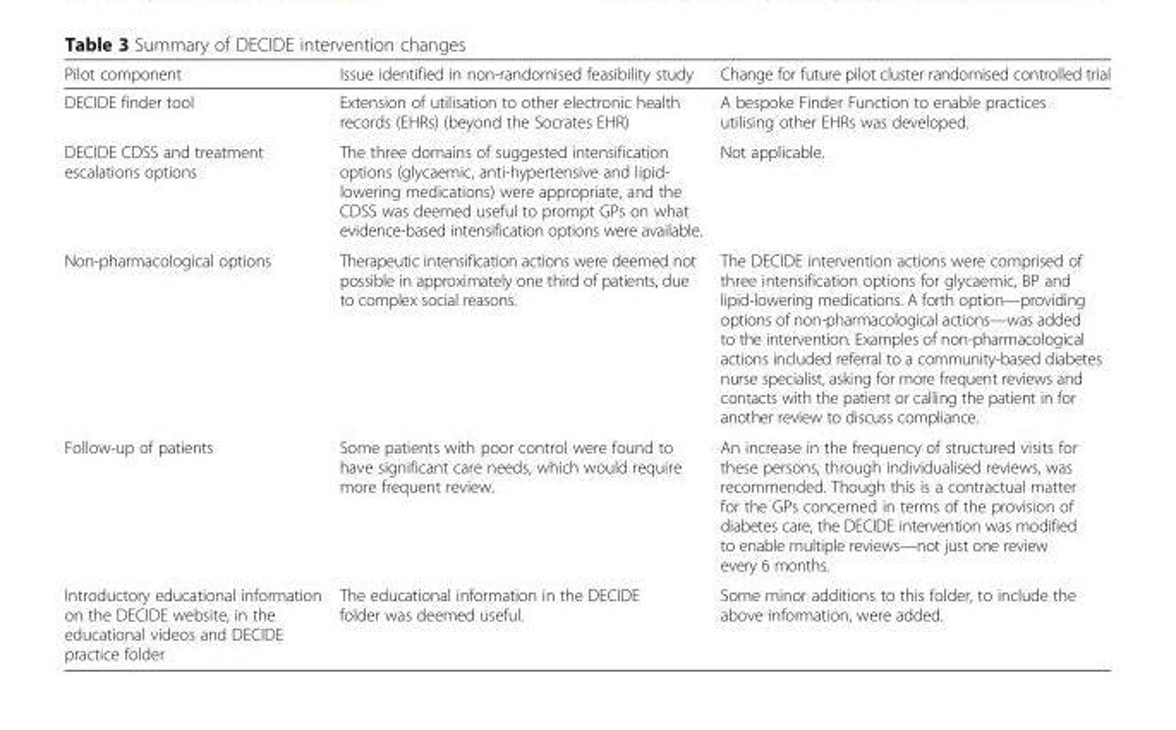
<table><thead><tr><td>Pilot component</td><td>Issue identified in non-randomised feasibility study</td><td>Change for future pilot cluster randomised controlled trial</td></tr></thead><tbody><tr><td>DECIDE finder tool</td><td>Extension of utilisation to other electronic health records (EHRs) (beyond the Socrates EHR)</td><td>A bespoke Finder Function to enable practices utilising other EHRs was developed.</td></tr><tr><td>DECIDE CDSS and treatment escalations options</td><td>The three domains of suggested intensification options (glycaemic, anti-hypertensive and lipid- lowering medications) were appropriate, and the CDSS was deemed useful to prompt GPs on what evidence-based intensification options were available.</td><td>Not applicable.</td></tr><tr><td>Non-pharmacological options</td><td>Therapeutic intensification actions were deemed not possible in approximately one third of patients, due to complex social reasons.</td><td>The DECIDE intervention actions were comprised of three intensification options for glycaemic, BP and lipid-lowering medications. A forth option—providing options of non-pharmacological actions—was added to the intervention. Examples of non-pharmacological actions included referral to a community-based diabetes nurse specialist, asking for more frequent reviews and contacts with the patient or calling the patient in for another review to discuss compliance.</td></tr><tr><td>Follow-up of patients</td><td>Some patients with poor control were found to have significant care needs, which would require more frequent review.</td><td>An increase in the frequency of structured visits for these persons, through individualised reviews, was recommended. Though this is a contractual matter for the GPs concerned in terms of the provision of diabetes care, the DECIDE intervention was modified to enable multiple reviews—not just one review every 6 months.</td></tr><tr><td>Introductory educational information on the DECIDE website, in the educational videos and DECIDE practice folder</td><td>The educational information in the DECIDE folder was deemed useful.</td><td>Some minor additions to this folder, to include the above information, were added.</td></tr></tbody></table>